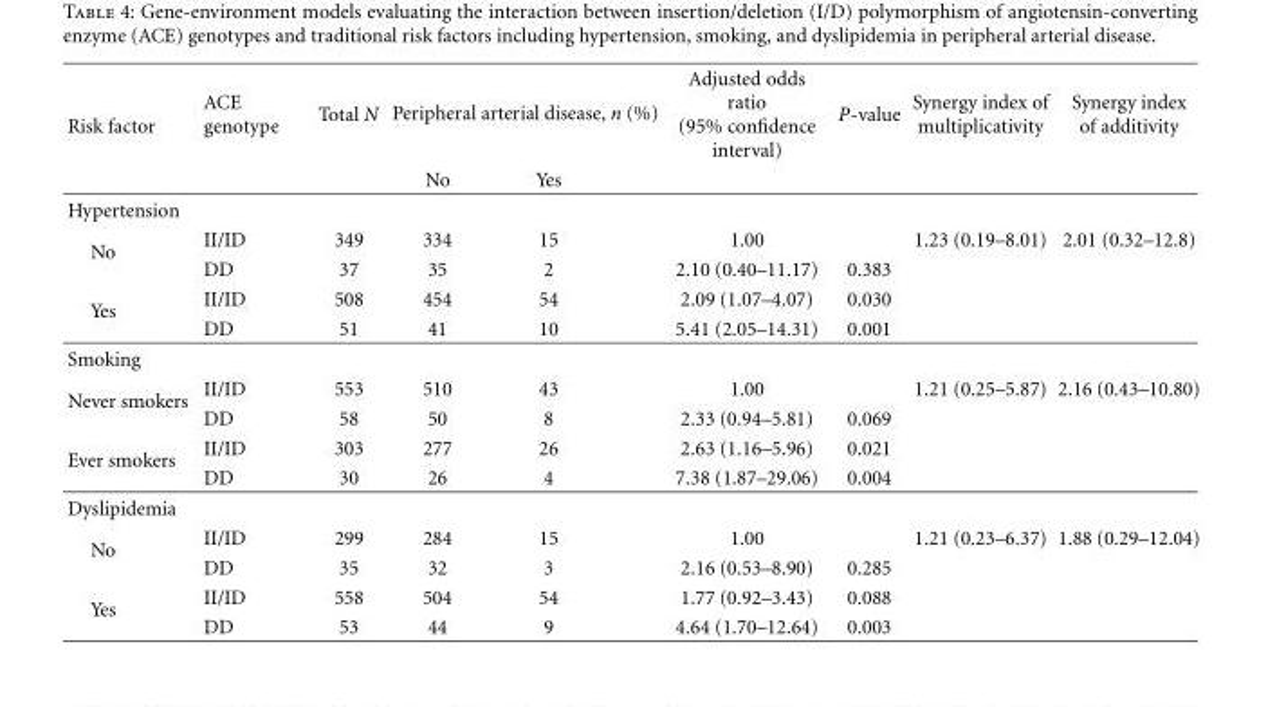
<table><thead><tr><td rowspan="2">Risk factor</td><td rowspan="2">ACE genotype</td><td rowspan="2">Total N</td><td colspan="2">Peripheral arterial disease, n (%)</td><td rowspan="2">Adjusted odds ratio (95% confidence interval)</td><td rowspan="2">P-value</td><td rowspan="2">Synergy index of multiplicativity</td><td rowspan="2">Synergy index of additivity</td></tr><tr><td>No</td><td>Yes</td></tr></thead><tbody><tr><td colspan="9">Hypertension</td></tr><tr><td rowspan="2">No</td><td>II/ID</td><td>349</td><td>334</td><td>15</td><td>1.00</td><td></td><td>1.23 (0.19–8.01)</td><td>2.01 (0.32–12.8)</td></tr><tr><td>DD</td><td>37</td><td>35</td><td>2</td><td>2.10 (0.40–11.17)</td><td>0.383</td><td></td><td></td></tr><tr><td rowspan="2">Yes</td><td>II/ID</td><td>508</td><td>454</td><td>54</td><td>2.09 (1.07–4.07)</td><td>0.030</td><td></td><td></td></tr><tr><td>DD</td><td>51</td><td>41</td><td>10</td><td>5.41 (2.05–14.31)</td><td>0.001</td><td></td><td></td></tr><tr><td colspan="9">Smoking</td></tr><tr><td rowspan="2">Never smokers</td><td>II/ID</td><td>553</td><td>510</td><td>43</td><td>1.00</td><td></td><td>1.21 (0.25–5.87)</td><td>2.16 (0.43–10.80)</td></tr><tr><td>DD</td><td>58</td><td>50</td><td>8</td><td>2.33 (0.94–5.81)</td><td>0.069</td><td></td><td></td></tr><tr><td rowspan="2">Ever smokers</td><td>II/ID</td><td>303</td><td>277</td><td>26</td><td>2.63 (1.16–5.96)</td><td>0.021</td><td></td><td></td></tr><tr><td>DD</td><td>30</td><td>26</td><td>4</td><td>7.38 (1.87–29.06)</td><td>0.004</td><td></td><td></td></tr><tr><td colspan="9">Dyslipidemia</td></tr><tr><td rowspan="2">No</td><td>II/ID</td><td>299</td><td>284</td><td>15</td><td>1.00</td><td></td><td>1.21 (0.23–6.37)</td><td>1.88 (0.29–12.04)</td></tr><tr><td>DD</td><td>35</td><td>32</td><td>3</td><td>2.16 (0.53–8.90)</td><td>0.285</td><td></td><td></td></tr><tr><td rowspan="2">Yes</td><td>II/ID</td><td>558</td><td>504</td><td>54</td><td>1.77 (0.92–3.43)</td><td>0.088</td><td></td><td></td></tr><tr><td>DD</td><td>53</td><td>44</td><td>9</td><td>4.64 (1.70–12.64)</td><td>0.003</td><td></td><td></td></tr></tbody></table>